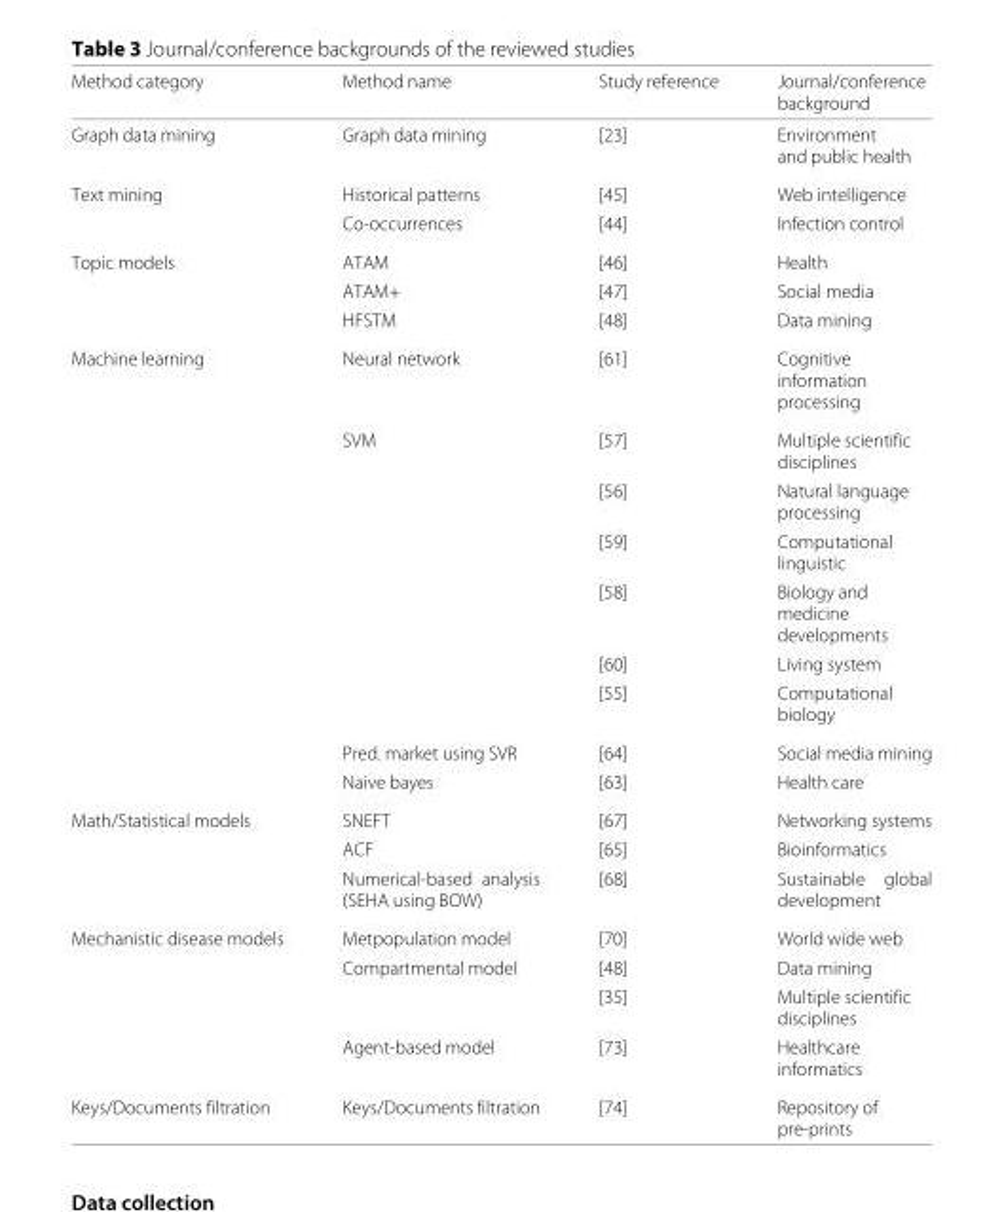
<table><thead><tr><td>Method category</td><td>Method name</td><td>Study reference</td><td>Journal/conference background</td></tr></thead><tbody><tr><td>Graph data mining</td><td>Graph data mining</td><td>[23]</td><td>Environment and public health</td></tr><tr><td rowspan="2">Text mining</td><td>Historical patterns</td><td>[45]</td><td>Web intelligence</td></tr><tr><td>Co-occurrences</td><td>[44]</td><td>Infection control</td></tr><tr><td rowspan="3">Topic models</td><td>ATAM</td><td>[46]</td><td>Health</td></tr><tr><td>ATAM+</td><td>[47]</td><td>Social media</td></tr><tr><td>HFSTM</td><td>[48]</td><td>Data mining</td></tr><tr><td rowspan="9">Machine learning</td><td>Neural network</td><td>[61]</td><td>Cognitive information processing</td></tr><tr><td>SVM</td><td>[57]</td><td>Multiple scientific disciplines</td></tr><tr><td></td><td>[56]</td><td>Natural language processing</td></tr><tr><td></td><td>[59]</td><td>Computational linguistic</td></tr><tr><td></td><td>[58]</td><td>Biology and medicine developments</td></tr><tr><td></td><td>[60]</td><td>Living system</td></tr><tr><td></td><td>[55]</td><td>Computational biology</td></tr><tr><td>Pred. market using SVR</td><td>[64]</td><td>Social media mining</td></tr><tr><td>Naive bayes</td><td>[63]</td><td>Health care</td></tr><tr><td rowspan="3">Math/Statistical models</td><td>SNEFT</td><td>[67]</td><td>Networking systems</td></tr><tr><td>ACF</td><td>[65]</td><td>Bioinformatics</td></tr><tr><td>Numerical-based analysis (SEHA using BOW)</td><td>[68]</td><td>Sustainable global development</td></tr><tr><td rowspan="4">Mechanistic disease models</td><td>Metpopulation model</td><td>[70]</td><td>World wide web</td></tr><tr><td>Compartmental model</td><td>[48]</td><td>Data mining</td></tr><tr><td></td><td>[35]</td><td>Multiple scientific disciplines</td></tr><tr><td>Agent-based model</td><td>[73]</td><td>Healthcare informatics</td></tr><tr><td>Keys/Documents filtration</td><td>Keys/Documents filtration</td><td>[74]</td><td>Repository of pre-prints</td></tr></tbody></table>